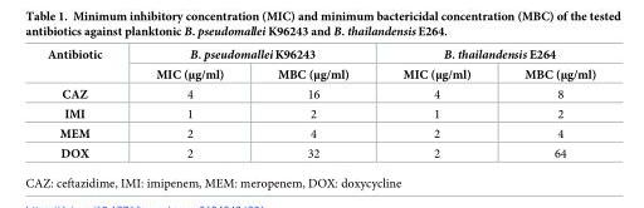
<table><thead><tr><td rowspan="2">Antibiotic</td><td colspan="2">B. pseudomallei K96243</td><td colspan="2">B. thailandensis E264</td></tr><tr><td>MIC (μg/ml)</td><td>MBC (μg/ml)</td><td>MIC (μg/ml)</td><td>MBC (μg/ml)</td></tr></thead><tbody><tr><td>CAZ</td><td>4</td><td>16</td><td>4</td><td>8</td></tr><tr><td>IMI</td><td>1</td><td>2</td><td>1</td><td>2</td></tr><tr><td>MEM</td><td>2</td><td>4</td><td>2</td><td>4</td></tr><tr><td>DOX</td><td>2</td><td>32</td><td>2</td><td>64</td></tr></tbody></table>